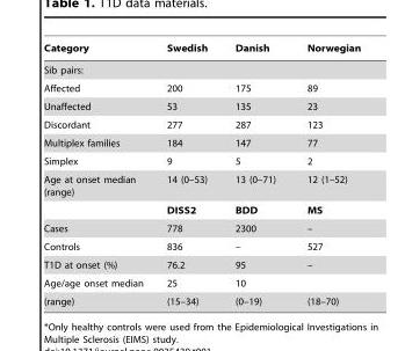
<table><thead><tr><td>Category</td><td>Swedish</td><td>Danish</td><td>Norwegian</td></tr></thead><tbody><tr><td colspan="4">Sib pairs:</td></tr><tr><td>Affected</td><td>200</td><td>175</td><td>89</td></tr><tr><td>Unaffected</td><td>53</td><td>135</td><td>23</td></tr><tr><td>Discordant</td><td>277</td><td>287</td><td>123</td></tr><tr><td>Multiplex families</td><td>184</td><td>147</td><td>77</td></tr><tr><td>Simplex</td><td>9</td><td>5</td><td>2</td></tr><tr><td rowspan="2">Age at onset median (range)</td><td>14 (0–53)</td><td>13 (0–71)</td><td>12 (1–52)</td></tr><tr><td>DISS2</td><td>BDD</td><td>MS</td></tr><tr><td>Cases</td><td>778</td><td>2300</td><td>–</td></tr><tr><td>Controls</td><td>836</td><td>–</td><td>527</td></tr><tr><td>T1D at onset (%)</td><td>76.2</td><td>95</td><td>–</td></tr><tr><td>Age/age onset median</td><td>25</td><td>10</td><td></td></tr><tr><td>(range)</td><td>(15–34)</td><td>(0–19)</td><td>(18–70)</td></tr></tbody></table>